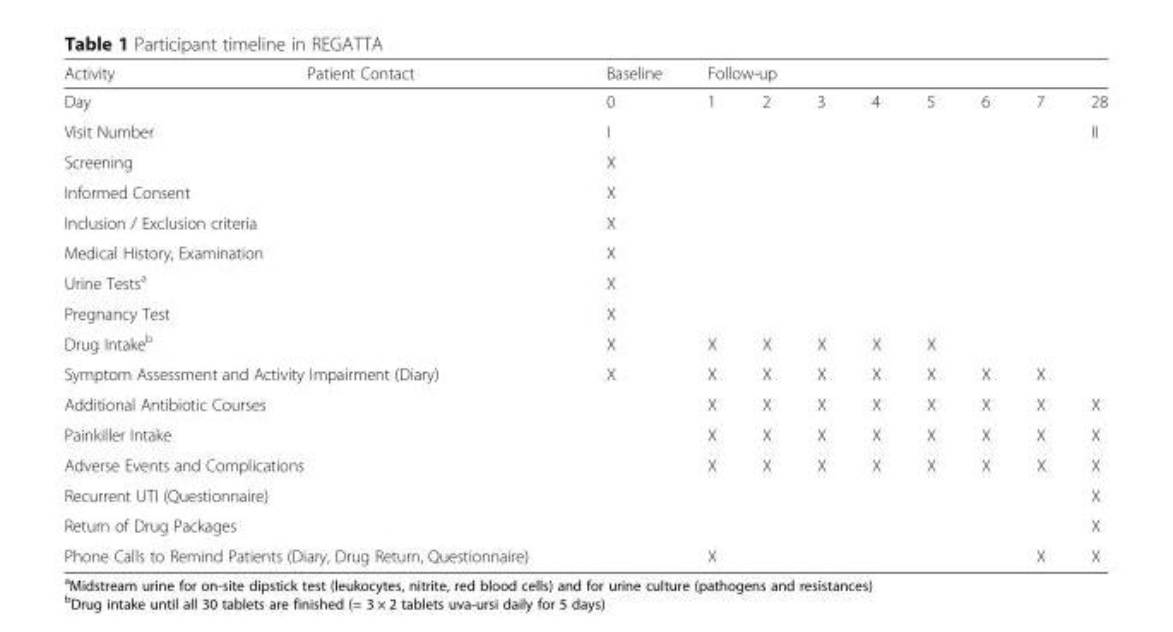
<table><thead><tr><td>Activity</td><td>Patient Contact</td><td rowspan="2">Baseline 0</td><td colspan="8">Follow-up</td></tr><tr><td colspan="2">Day</td><td>1</td><td>2</td><td>3</td><td>4</td><td>5</td><td>6</td><td>7</td><td>28</td></tr></thead><tbody><tr><td colspan="2">Visit Number</td><td>I</td><td></td><td></td><td></td><td></td><td></td><td></td><td></td><td>II</td></tr><tr><td colspan="2">Screening</td><td>X</td><td></td><td></td><td></td><td></td><td></td><td></td><td></td><td></td></tr><tr><td colspan="2">Informed Consent</td><td>X</td><td></td><td></td><td></td><td></td><td></td><td></td><td></td><td></td></tr><tr><td colspan="2">Inclusion / Exclusion criteria</td><td>X</td><td></td><td></td><td></td><td></td><td></td><td></td><td></td><td></td></tr><tr><td colspan="2">Medical History, Examination</td><td>X</td><td></td><td></td><td></td><td></td><td></td><td></td><td></td><td></td></tr><tr><td colspan="2">Urine Tests<sup>a</sup></td><td>X</td><td></td><td></td><td></td><td></td><td></td><td></td><td></td><td></td></tr><tr><td colspan="2">Pregnancy Test</td><td>X</td><td></td><td></td><td></td><td></td><td></td><td></td><td></td><td></td></tr><tr><td colspan="2">Drug Intake<sup>b</sup></td><td>X</td><td>X</td><td>X</td><td>X</td><td>X</td><td>X</td><td></td><td></td><td></td></tr><tr><td colspan="2">Symptom Assessment and Activity Impairment (Diary)</td><td>X</td><td>X</td><td>X</td><td>X</td><td>X</td><td>X</td><td>X</td><td>X</td><td></td></tr><tr><td colspan="2">Additional Antibiotic Courses</td><td></td><td>X</td><td>X</td><td>X</td><td>X</td><td>X</td><td>X</td><td>X</td><td>X</td></tr><tr><td colspan="2">Painkiller Intake</td><td></td><td>X</td><td>X</td><td>X</td><td>X</td><td>X</td><td>X</td><td>X</td><td>X</td></tr><tr><td colspan="2">Adverse Events and Complications</td><td></td><td>X</td><td>X</td><td>X</td><td>X</td><td>X</td><td>X</td><td>X</td><td>X</td></tr><tr><td colspan="2">Recurrent UTI (Questionnaire)</td><td></td><td></td><td></td><td></td><td></td><td></td><td></td><td></td><td>X</td></tr><tr><td colspan="2">Return of Drug Packages</td><td></td><td></td><td></td><td></td><td></td><td></td><td></td><td></td><td>X</td></tr><tr><td colspan="2">Phone Calls to Remind Patients (Diary, Drug Return, Questionnaire)</td><td></td><td>X</td><td></td><td></td><td></td><td></td><td></td><td>X</td><td>X</td></tr></tbody></table>